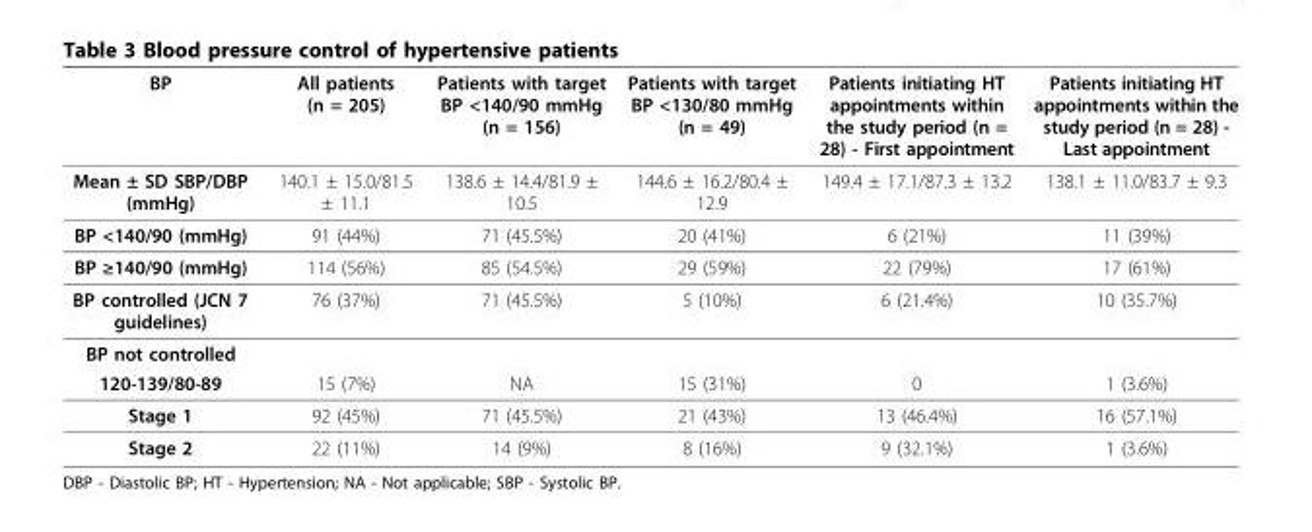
<table><thead><tr><td>BP</td><td>All patients (n = 205)</td><td>Patients with target BP &lt;140/90 mmHg (n = 156)</td><td>Patients with target BP &lt;130/80 mmHg (n = 49)</td><td>Patients initiating HT appointments within the study period (n = 28) - First appointment</td><td>Patients initiating HT appointments within the study period (n = 28) - Last appointment</td></tr></thead><tbody><tr><td>Mean ± SD SBP/DBP (mmHg)</td><td>140.1 ± 15.0/81.5 ± 11.1</td><td>138.6 ± 14.4/81.9 ± 10.5</td><td>144.6 ± 16.2/80.4 ± 12.9</td><td>149.4 ± 17.1/87.3 ± 13.2</td><td>138.1 ± 11.0/83.7 ± 9.3</td></tr><tr><td>BP &lt;140/90 (mmHg)</td><td>91 (44%)</td><td>71 (45.5%)</td><td>20 (41%)</td><td>6 (21%)</td><td>11 (39%)</td></tr><tr><td>BP ≥140/90 (mmHg)</td><td>114 (56%)</td><td>85 (54.5%)</td><td>29 (59%)</td><td>22 (79%)</td><td>17 (61%)</td></tr><tr><td>BP controlled (JCN 7 guidelines)</td><td>76 (37%)</td><td>71 (45.5%)</td><td>5 (10%)</td><td>6 (21.4%)</td><td>10 (35.7%)</td></tr><tr><td colspan="6">BP not controlled</td></tr><tr><td>120-139/80-89</td><td>15 (7%)</td><td>NA</td><td>15 (31%)</td><td>0</td><td>1 (3.6%)</td></tr><tr><td>Stage 1</td><td>92 (45%)</td><td>71 (45.5%)</td><td>21 (43%)</td><td>13 (46.4%)</td><td>16 (57.1%)</td></tr><tr><td>Stage 2</td><td>22 (11%)</td><td>14 (9%)</td><td>8 (16%)</td><td>9 (32.1%)</td><td>1 (3.6%)</td></tr></tbody></table>